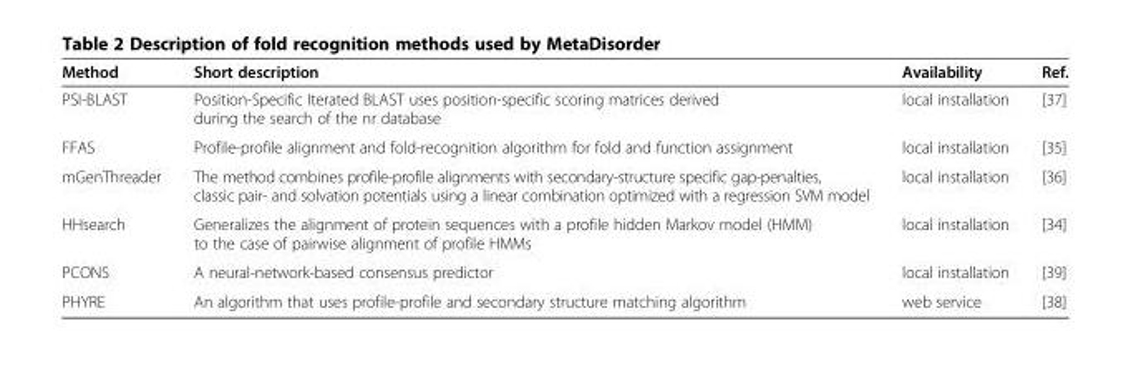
<table><thead><tr><td>Method</td><td>Short description</td><td>Availability</td><td>Ref.</td></tr></thead><tbody><tr><td>PSI-BLAST</td><td>Position-Specific Iterated BLAST uses position-specific scoring matrices derived during the search of the nr database</td><td>local installation</td><td>[37]</td></tr><tr><td>FFAS</td><td>Profile-profile alignment and fold-recognition algorithm for fold and function assignment</td><td>local installation</td><td>[35]</td></tr><tr><td>mGenThreader</td><td>The method combines profile-profile alignments with secondary-structure specific gap-penalties, classic pair- and solvation potentials using a linear combination optimized with a regression SVM model</td><td>local installation</td><td>[36]</td></tr><tr><td>HHsearch</td><td>Generalizes the alignment of protein sequences with a profile hidden Markov model (HMM) to the case of pairwise alignment of profile HMMs</td><td>local installation</td><td>[34]</td></tr><tr><td>PCONS</td><td>A neural-network-based consensus predictor</td><td>local installation</td><td>[39]</td></tr><tr><td>PHYRE</td><td>An algorithm that uses profile-profile and secondary structure matching algorithm</td><td>web service</td><td>[38]</td></tr></tbody></table>